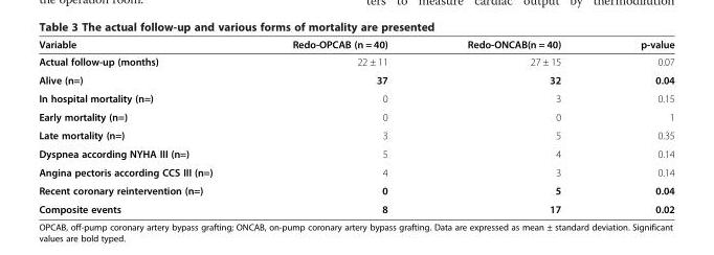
<table><thead><tr><td>Variable</td><td>Redo-OPCAB (n = 40)</td><td>Redo-ONCAB(n = 40)</td><td>p-value</td></tr></thead><tbody><tr><td>Actual follow-up (months)</td><td>22 ± 11</td><td>27 ± 15</td><td>0.07</td></tr><tr><td>Alive (n=)</td><td>37</td><td>32</td><td>0.04</td></tr><tr><td>In hospital mortality (n=)</td><td>0</td><td>3</td><td>0.15</td></tr><tr><td>Early mortality (n=)</td><td>0</td><td>0</td><td>1</td></tr><tr><td>Late mortality (n=)</td><td>3</td><td>5</td><td>0.35</td></tr><tr><td>Dyspnea according NYHA III (n=)</td><td>5</td><td>4</td><td>0.14</td></tr><tr><td>Angina pectoris according CCS III (n=)</td><td>4</td><td>3</td><td>0.14</td></tr><tr><td>Recent coronary reintervention (n=)</td><td>0</td><td>5</td><td>0.04</td></tr><tr><td>Composite events</td><td>8</td><td>17</td><td>0.02</td></tr></tbody></table>